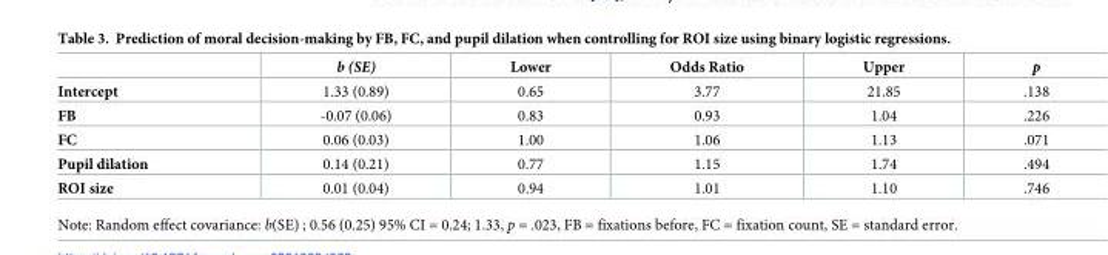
<table><thead><tr><td></td><td>b (SE)</td><td>Lower</td><td>Odds Ratio</td><td>Upper</td><td>p</td></tr></thead><tbody><tr><td>Intercept</td><td>1.33 (0.89)</td><td>0.65</td><td>3.77</td><td>21.85</td><td>.138</td></tr><tr><td>FB</td><td>-0.07 (0.06)</td><td>0.83</td><td>0.93</td><td>1.04</td><td>.226</td></tr><tr><td>FC</td><td>0.06 (0.03)</td><td>1.00</td><td>1.06</td><td>1.13</td><td>.071</td></tr><tr><td>Pupil dilation</td><td>0.14 (0.21)</td><td>0.77</td><td>1.15</td><td>1.74</td><td>.494</td></tr><tr><td>ROI size</td><td>0.01 (0.04)</td><td>0.94</td><td>1.01</td><td>1.10</td><td>.746</td></tr></tbody></table>